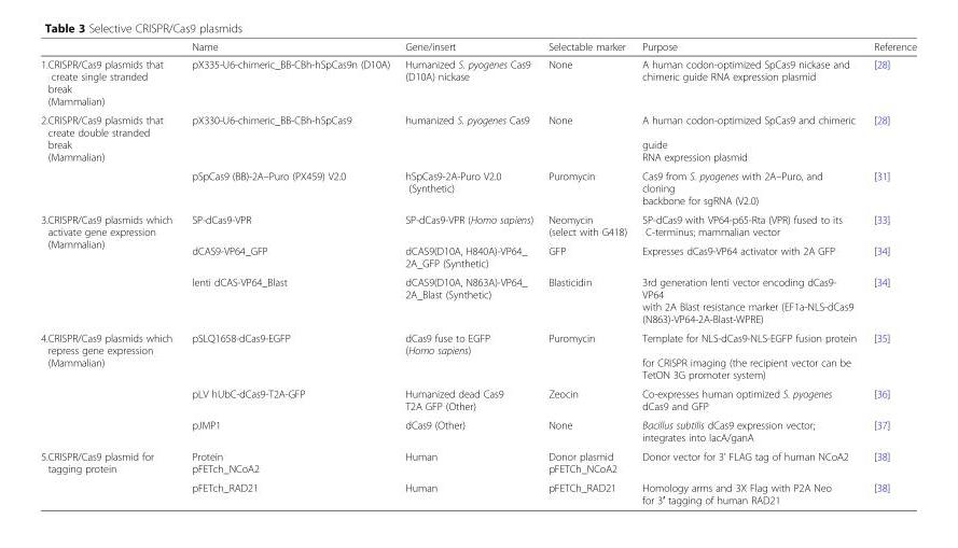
<table><thead><tr><td></td><td>Name</td><td>Gene/insert</td><td>Selectable marker</td><td>Purpose</td><td>Reference</td></tr></thead><tbody><tr><td>1.CRISPR/Cas9 plasmids that create single stranded break (Mammalian)</td><td>pX335-U6-chimeric_BB-CBh-hSpCas9n (D10A)</td><td>Humanized S. pyogenes Cas9 (D10A) nickase</td><td>None</td><td>A human codon-optimized SpCas9 nickase and chimeric guide RNA expression plasmid</td><td>[28]</td></tr><tr><td rowspan="2">2.CRISPR/Cas9 plasmids that create double stranded break (Mammalian)</td><td>pX330-U6-chimeric_BB-CBh-hSpCas9</td><td>humanized S. pyogenes Cas9</td><td>None</td><td>A human codon-optimized SpCas9 and chimeric guide RNA expression plasmid</td><td>[28]</td></tr><tr><td>pSpCas9 (BB)-2A–Puro (PX459) V2.0</td><td>hSpCas9-2A-Puro V2.0 (Synthetic)</td><td>Puromycin</td><td>Cas9 from S. pyogenes with 2A–Puro, and cloning backbone for sgRNA (V2.0)</td><td>[31]</td></tr><tr><td rowspan="3">3.CRISPR/Cas9 plasmids which activate gene expression (Mammalian)</td><td>SP-dCas9-VPR</td><td>SP-dCas9-VPR (Homo sapiens)</td><td>Neomycin (select with G418)</td><td>SP-dCas9 with VP64-p65-Rta (VPR) fused to its C-terminus; mammalian vector</td><td>[33]</td></tr><tr><td>dCAS9-VP64_GFP</td><td>dCAS9(D10A, H840A)-VP64_ 2A_GFP (Synthetic)</td><td>GFP</td><td>Expresses dCas9-VP64 activator with 2A GFP</td><td>[34]</td></tr><tr><td>lenti dCAS-VP64_Blast</td><td>dCAS9(D10A, N863A)-VP64_ 2A_Blast (Synthetic)</td><td>Blasticidin</td><td>3rd generation lenti vector encoding dCas9- VP64 with 2A Blast resistance marker (EF1a-NLS-dCas9 (N863)-VP64-2A-Blast-WPRE)</td><td>[34]</td></tr><tr><td rowspan="3">4.CRISPR/Cas9 plasmids which repress gene expression (Mammalian)</td><td>pSLQ1658-dCas9-EGFP</td><td>dCas9 fuse to EGFP (Homo sapiens)</td><td>Puromycin</td><td>Template for NLS-dCas9-NLS-EGFP fusion protein for CRISPR imaging (the recipient vector can be TetON 3G promoter system)</td><td>[35]</td></tr><tr><td>pLV hUbC-dCas9-T2A-GFP</td><td>Humanized dead Cas9 T2A GFP (Other)</td><td>Zeocin</td><td>Co-expresses human optimized S. pyogenes dCas9 and GFP</td><td>[36]</td></tr><tr><td>pJMP1</td><td>dCas9 (Other)</td><td>None</td><td>Bacillus subtilis dCas9 expression vector; integrates into lacA/ganA</td><td>[37]</td></tr><tr><td rowspan="2">5.CRISPR/Cas9 plasmid for tagging protein</td><td>Protein pFETch_NCoA2</td><td>Human</td><td>Donor plasmid pFETCh_NCoA2</td><td>Donor vector for 3’ FLAG tag of human NCoA2</td><td>[38]</td></tr><tr><td>pFETch_RAD21</td><td>Human</td><td>pFETCh_RAD21</td><td>Homology arms and 3X Flag with P2A Neo for 3′ tagging of human RAD21</td><td>[38]</td></tr></tbody></table>